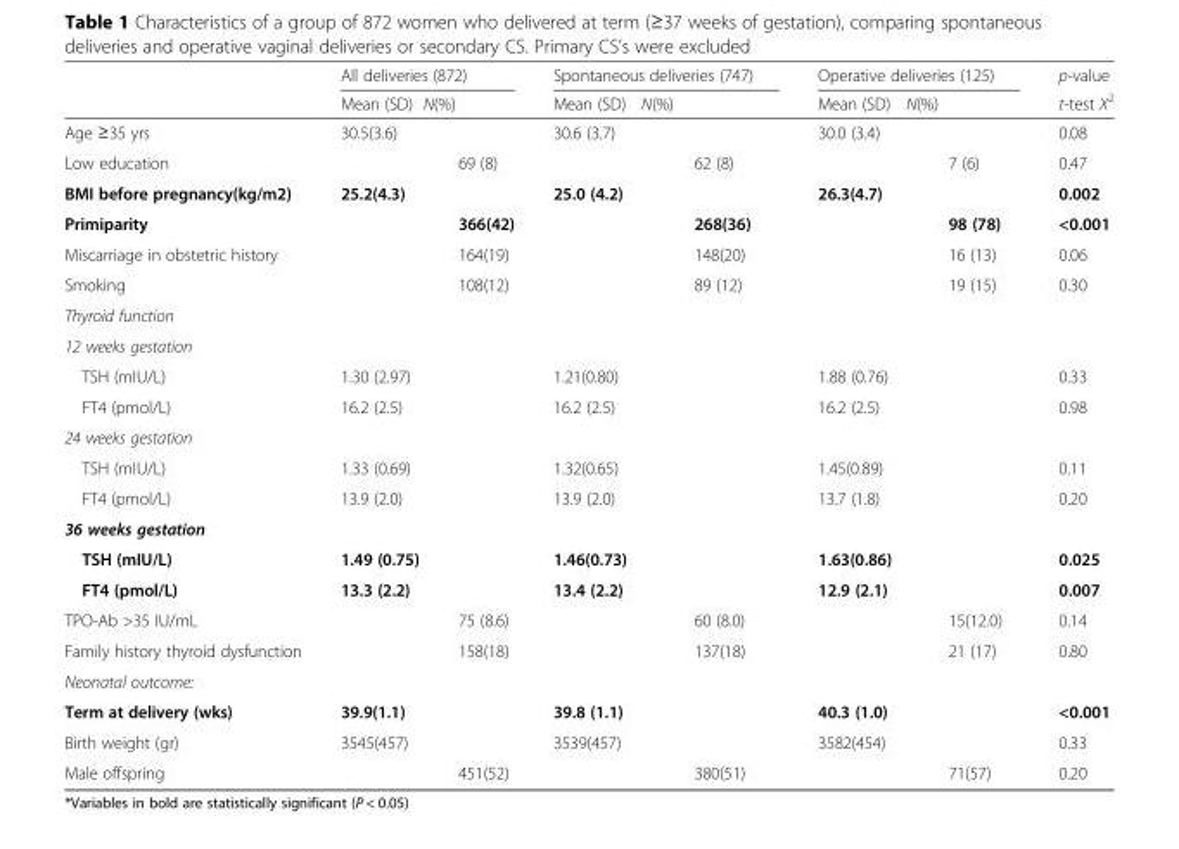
<table><thead><tr><td rowspan="3">Age ≥35 yrs</td><td rowspan="2" colspan="2">All deliveries (872) Mean (SD) N(%)</td><td rowspan="2" colspan="2">Spontaneous deliveries (747) Mean (SD) N(%)</td><td rowspan="2" colspan="2">Operative deliveries (125) Mean (SD) N(%)</td><td rowspan="3">p-value t-test X<sup>2</sup> 0.08</td></tr><tr></tr><tr><td>30.5(3.6)</td><td></td><td>30.6 (3.7)</td><td></td><td>30.0 (3.4)</td><td></td></tr></thead><tbody><tr><td>Low education</td><td></td><td>69 (8)</td><td></td><td>62 (8)</td><td></td><td>7 (6)</td><td>0.47</td></tr><tr><td>BMI before pregnancy(kg/m2)</td><td>25.2(4.3)</td><td></td><td>25.0 (4.2)</td><td></td><td>26.3(4.7)</td><td></td><td>0.002</td></tr><tr><td>Primiparity</td><td></td><td>366(42)</td><td></td><td>268(36)</td><td></td><td>98 (78)</td><td>&lt;0.001</td></tr><tr><td>Miscarriage in obstetric history</td><td></td><td>164(19)</td><td></td><td>148(20)</td><td></td><td>16 (13)</td><td>0.06</td></tr><tr><td>Smoking</td><td></td><td>108(12)</td><td></td><td>89 (12)</td><td></td><td>19 (15)</td><td>0.30</td></tr><tr><td colspan="8">Thyroid function</td></tr><tr><td colspan="8">12 weeks gestation</td></tr><tr><td>TSH (mIU/L)</td><td>1.30 (2.97)</td><td></td><td>1.21(0.80)</td><td></td><td>1.88 (0.76)</td><td></td><td>0.33</td></tr><tr><td>FT4 (pmol/L)</td><td>16.2 (2.5)</td><td></td><td>16.2 (2.5)</td><td></td><td>16.2 (2.5)</td><td></td><td>0.98</td></tr><tr><td colspan="8">24 weeks gestation</td></tr><tr><td>TSH (mIU/L)</td><td>1.33 (0.69)</td><td></td><td>1.32(0.65)</td><td></td><td>1.45(0.89)</td><td></td><td>0.11</td></tr><tr><td>FT4 (pmol/L)</td><td>13.9 (2.0)</td><td></td><td>13.9 (2.0)</td><td></td><td>13.7 (1.8)</td><td></td><td>0.20</td></tr><tr><td colspan="8">36 weeks gestation</td></tr><tr><td>TSH (mIU/L)</td><td>1.49 (0.75)</td><td></td><td>1.46(0.73)</td><td></td><td>1.63(0.86)</td><td></td><td>0.025</td></tr><tr><td>FT4 (pmol/L)</td><td>13.3 (2.2)</td><td></td><td>13.4 (2.2)</td><td></td><td>12.9 (2.1)</td><td></td><td>0.007</td></tr><tr><td>TPO-Ab &gt;35 IU/mL</td><td></td><td>75 (8.6)</td><td></td><td>60 (8.0)</td><td></td><td>15(12.0)</td><td>0.14</td></tr><tr><td>Family history thyroid dysfunction</td><td></td><td>158(18)</td><td></td><td>137(18)</td><td></td><td>21 (17)</td><td>0.80</td></tr><tr><td colspan="8">Neonatal outcome:</td></tr><tr><td>Term at delivery (wks)</td><td>39.9(1.1)</td><td></td><td>39.8 (1.1)</td><td></td><td>40.3 (1.0)</td><td></td><td>&lt;0.001</td></tr><tr><td>Birth weight (gr)</td><td>3545(457)</td><td></td><td>3539(457)</td><td></td><td>3582(454)</td><td></td><td>0.33</td></tr><tr><td>Male offspring</td><td></td><td>451(52)</td><td></td><td>380(51)</td><td></td><td>71(57)</td><td>0.20</td></tr></tbody></table>